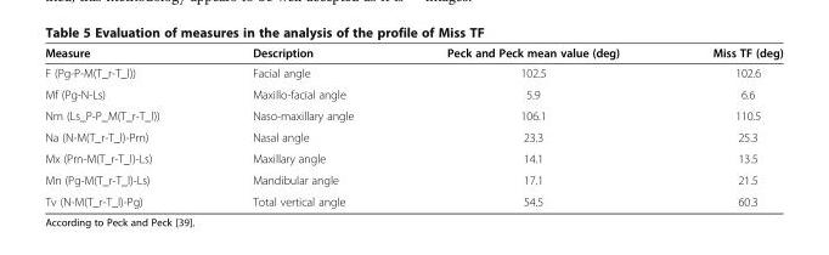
<table><thead><tr><td>Measure</td><td>Description</td><td>Peck and Peck mean value (deg)</td><td>Miss TF (deg)</td></tr></thead><tbody><tr><td>F (Pg-P-M(T_r-T_l))</td><td>Facial angle</td><td>102.5</td><td>102.6</td></tr><tr><td>Mf (Pg-N-Ls)</td><td>Maxillo-facial angle</td><td>5.9</td><td>6.6</td></tr><tr><td>Nm (Ls_P-P_M(T_r-T_l))</td><td>Naso-maxillary angle</td><td>106.1</td><td>110.5</td></tr><tr><td>Na (N-M(T_r-T_l)-Prn)</td><td>Nasal angle</td><td>23.3</td><td>25.3</td></tr><tr><td>Mx (Prn-M(T_r-T_l)-Ls)</td><td>Maxillary angle</td><td>14.1</td><td>13.5</td></tr><tr><td>Mn (Pg-M(T_r-T_l)-Ls)</td><td>Mandibular angle</td><td>17.1</td><td>21.5</td></tr><tr><td>Tv (N-M(T_r-T_l)-Pg)</td><td>Total vertical angle</td><td>54.5</td><td>60.3</td></tr></tbody></table>